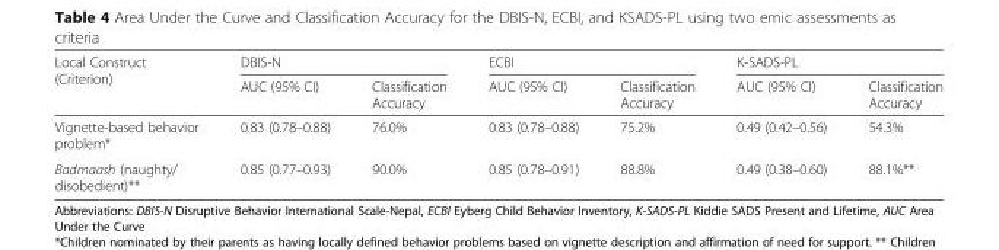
<table><thead><tr><td rowspan="2">Local Construct (Criterion)</td><td colspan="2">DBIS-N</td><td colspan="2">ECBI</td><td colspan="2">K-SADS-PL</td></tr><tr><td>AUC (95% CI)</td><td>Classification Accuracy</td><td>AUC (95% CI)</td><td>Classification Accuracy</td><td>AUC (95% CI)</td><td>Classification Accuracy</td></tr></thead><tbody><tr><td>Vignette-based behavior problem*</td><td>0.83 (0.78–0.88)</td><td>76.0%</td><td>0.83 (0.78–0.88)</td><td>75.2%</td><td>0.49 (0.42–0.56)</td><td>54.3%</td></tr><tr><td>Badmaash (naughty/ disobedient)**</td><td>0.85 (0.77–0.93)</td><td>90.0%</td><td>0.85 (0.78–0.91)</td><td>88.8%</td><td>0.49 (0.38–0.60)</td><td>88.1%**</td></tr></tbody></table>